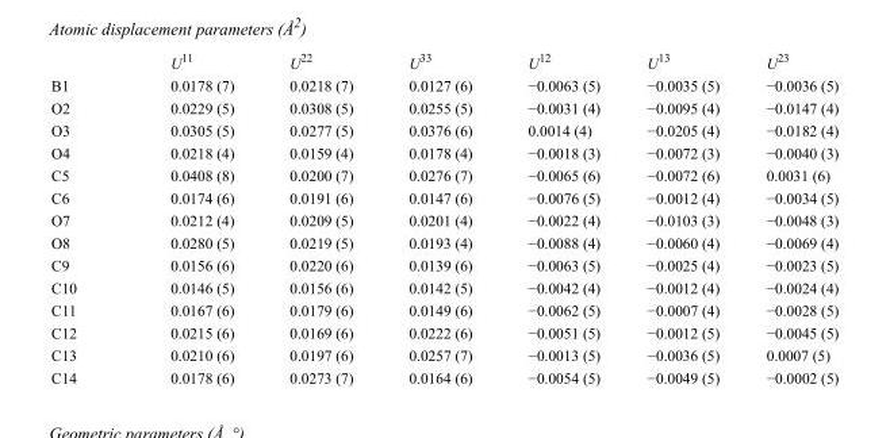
<table><thead><tr><td></td><td>U<sup>11</sup></td><td>U<sup>22</sup></td><td>U<sup>33</sup></td><td>U<sup>12</sup></td><td>U<sup>13</sup></td><td>U<sup>23</sup></td></tr></thead><tbody><tr><td>B1</td><td>0.0178 (7)</td><td>0.0218 (7)</td><td>0.0127 (6)</td><td>−0.0063 (5)</td><td>−0.0035 (5)</td><td>−0.0036 (5)</td></tr><tr><td>O2</td><td>0.0229 (5)</td><td>0.0308 (5)</td><td>0.0255 (5)</td><td>−0.0031 (4)</td><td>−0.0095 (4)</td><td>−0.0147 (4)</td></tr><tr><td>O3</td><td>0.0305 (5)</td><td>0.0277 (5)</td><td>0.0376 (6)</td><td>0.0014 (4)</td><td>−0.0205 (4)</td><td>−0.0182 (4)</td></tr><tr><td>O4</td><td>0.0218 (4)</td><td>0.0159 (4)</td><td>0.0178 (4)</td><td>−0.0018 (3)</td><td>−0.0072 (3)</td><td>−0.0040 (3)</td></tr><tr><td>C5</td><td>0.0408 (8)</td><td>0.0200 (7)</td><td>0.0276 (7)</td><td>−0.0065 (6)</td><td>−0.0072 (6)</td><td>0.0031 (6)</td></tr><tr><td>C6</td><td>0.0174 (6)</td><td>0.0191 (6)</td><td>0.0147 (6)</td><td>−0.0076 (5)</td><td>−0.0012 (4)</td><td>−0.0034 (5)</td></tr><tr><td>O7</td><td>0.0212 (4)</td><td>0.0209 (5)</td><td>0.0201 (4)</td><td>−0.0022 (4)</td><td>−0.0103 (3)</td><td>−0.0048 (3)</td></tr><tr><td>O8</td><td>0.0280 (5)</td><td>0.0219 (5)</td><td>0.0193 (4)</td><td>−0.0088 (4)</td><td>−0.0060 (4)</td><td>−0.0069 (4)</td></tr><tr><td>C9</td><td>0.0156 (6)</td><td>0.0220 (6)</td><td>0.0139 (6)</td><td>−0.0063 (5)</td><td>−0.0025 (4)</td><td>−0.0023 (5)</td></tr><tr><td>C10</td><td>0.0146 (5)</td><td>0.0156 (6)</td><td>0.0142 (5)</td><td>−0.0042 (4)</td><td>−0.0012 (4)</td><td>−0.0024 (4)</td></tr><tr><td>C11</td><td>0.0167 (6)</td><td>0.0179 (6)</td><td>0.0149 (6)</td><td>−0.0062 (5)</td><td>−0.0007 (4)</td><td>−0.0028 (5)</td></tr><tr><td>C12</td><td>0.0215 (6)</td><td>0.0169 (6)</td><td>0.0222 (6)</td><td>−0.0051 (5)</td><td>−0.0012 (5)</td><td>−0.0045 (5)</td></tr><tr><td>C13</td><td>0.0210 (6)</td><td>0.0197 (6)</td><td>0.0257 (7)</td><td>−0.0013 (5)</td><td>−0.0036 (5)</td><td>0.0007 (5)</td></tr><tr><td>C14</td><td>0.0178 (6)</td><td>0.0273 (7)</td><td>0.0164 (6)</td><td>−0.0054 (5)</td><td>−0.0049 (5)</td><td>−0.0002 (5)</td></tr></tbody></table>